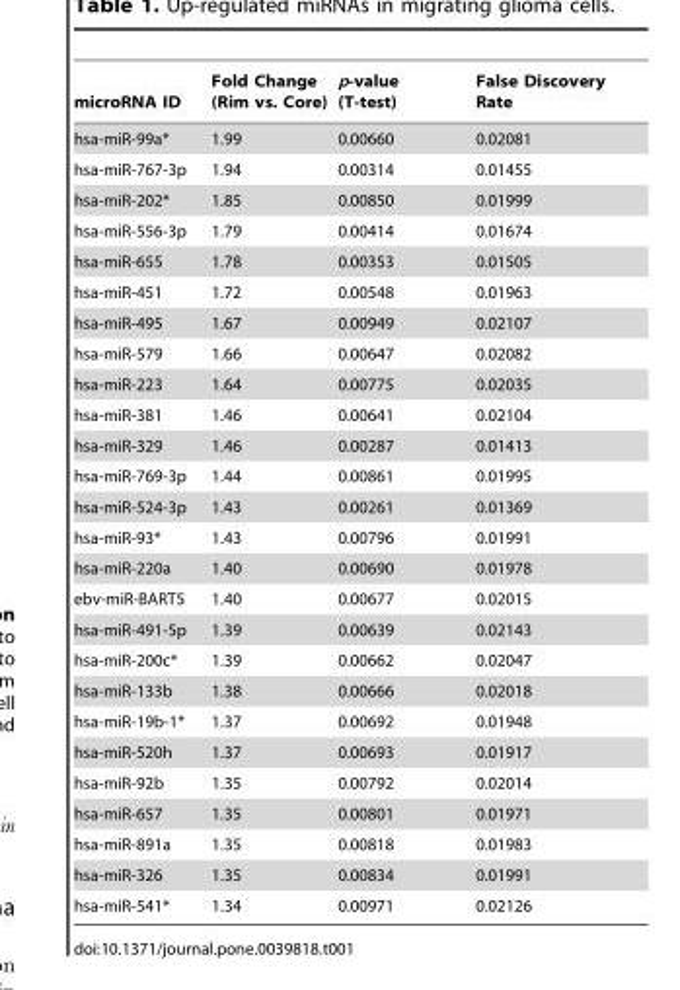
<table><thead><tr><td>microRNA ID</td><td>Fold Change (Rim vs. Core)</td><td>p-value (T-test)</td><td>False Discovery Rate</td></tr></thead><tbody><tr><td>hsa-miR-99a*</td><td>1.99</td><td>0.00660</td><td>0.02081</td></tr><tr><td>hsa-miR-767-3p</td><td>1.94</td><td>0.00314</td><td>0.01455</td></tr><tr><td>hsa-miR-202*</td><td>1.85</td><td>0.00850</td><td>0.01999</td></tr><tr><td>hsa-miR-556-3p</td><td>1.79</td><td>0.00414</td><td>0.01674</td></tr><tr><td>hsa-miR-655</td><td>1.78</td><td>0.00353</td><td>0.01505</td></tr><tr><td>hsa-miR-451</td><td>1.72</td><td>0.00548</td><td>0.01963</td></tr><tr><td>hsa-miR-495</td><td>1.67</td><td>0.00949</td><td>0.02107</td></tr><tr><td>hsa-miR-579</td><td>1.66</td><td>0.00647</td><td>0.02082</td></tr><tr><td>hsa-miR-223</td><td>1.64</td><td>0.00775</td><td>0.02035</td></tr><tr><td>hsa-miR-381</td><td>1.46</td><td>0.00641</td><td>0.02104</td></tr><tr><td>hsa-miR-329</td><td>1.46</td><td>0.00287</td><td>0.01413</td></tr><tr><td>hsa-miR-769-3p</td><td>1.44</td><td>0.00861</td><td>0.01995</td></tr><tr><td>hsa-miR-524-3p</td><td>1.43</td><td>0.00261</td><td>0.01369</td></tr><tr><td>hsa-miR-93*</td><td>1.43</td><td>0.00796</td><td>0.01991</td></tr><tr><td>hsa-miR-220a</td><td>1.40</td><td>0.00690</td><td>0.01978</td></tr><tr><td>ebv-miR-BART5</td><td>1.40</td><td>0.00677</td><td>0.02015</td></tr><tr><td>hsa-miR-491-5p</td><td>1.39</td><td>0.00639</td><td>0.02143</td></tr><tr><td>hsa-miR-200c*</td><td>1.39</td><td>0.00662</td><td>0.02047</td></tr><tr><td>hsa-miR-133b</td><td>1.38</td><td>0.00666</td><td>0.02018</td></tr><tr><td>hsa-miR-19b-1*</td><td>1.37</td><td>0.00692</td><td>0.01948</td></tr><tr><td>hsa-miR-520h</td><td>1.37</td><td>0.00693</td><td>0.01917</td></tr><tr><td>hsa-miR-92b</td><td>1.35</td><td>0.00792</td><td>0.02014</td></tr><tr><td>hsa-miR-657</td><td>1.35</td><td>0.00801</td><td>0.01971</td></tr><tr><td>hsa-miR-891a</td><td>1.35</td><td>0.00818</td><td>0.01983</td></tr><tr><td>hsa-miR-326</td><td>1.35</td><td>0.00834</td><td>0.01991</td></tr><tr><td>hsa-miR-541*</td><td>1.34</td><td>0.00971</td><td>0.02126</td></tr></tbody></table>